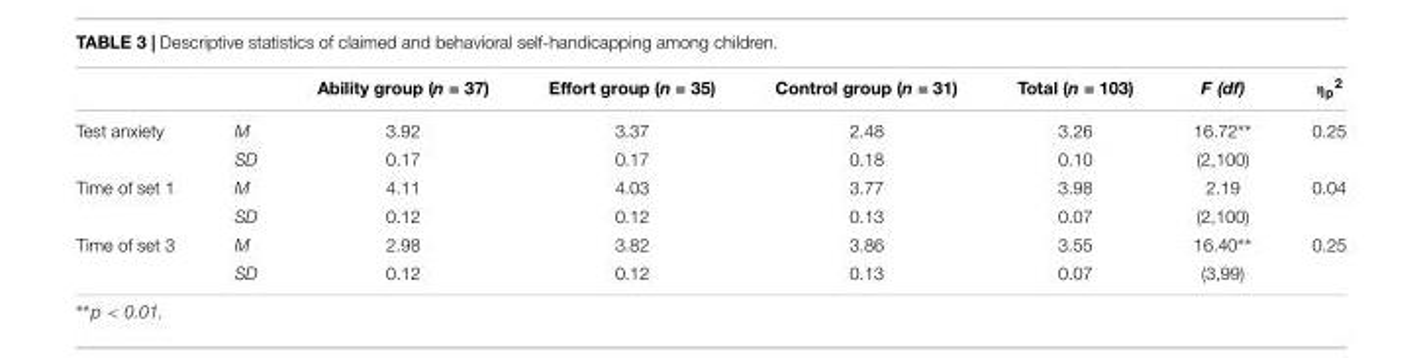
<table><thead><tr><td></td><td></td><td>Ability group (n = 37)</td><td>Effort group (n = 35)</td><td>Control group (n = 31)</td><td>Total (n = 103)</td><td>F (df)</td><td>η<sub>p</sub><sup>2</sup></td></tr></thead><tbody><tr><td rowspan="2">Test anxiety</td><td>M</td><td>3.92</td><td>3.37</td><td>2.48</td><td>3.26</td><td>16.72∗∗</td><td>0.25</td></tr><tr><td>SD</td><td>0.17</td><td>0.17</td><td>0.18</td><td>0.10</td><td>(2,100)</td><td></td></tr><tr><td rowspan="2">Time of set 1</td><td>M</td><td>4.11</td><td>4.03</td><td>3.77</td><td>3.98</td><td>2.19</td><td>0.04</td></tr><tr><td>SD</td><td>0.12</td><td>0.12</td><td>0.13</td><td>0.07</td><td>(2,100)</td><td></td></tr><tr><td rowspan="2">Time of set 3</td><td>M</td><td>2.98</td><td>3.82</td><td>3.86</td><td>3.55</td><td>16.40∗∗</td><td>0.25</td></tr><tr><td>SD</td><td>0.12</td><td>0.12</td><td>0.13</td><td>0.07</td><td>(3,99)</td><td></td></tr></tbody></table>